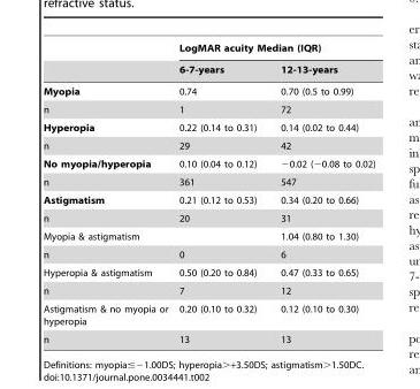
<table><thead><tr><td rowspan="2"></td><td colspan="2">LogMAR acuity Median (IQR)</td></tr><tr><td>6-7-years</td><td>12-13-years</td></tr></thead><tbody><tr><td>Myopia</td><td>0.74</td><td>0.70 (0.5 to 0.99)</td></tr><tr><td>n</td><td>1</td><td>72</td></tr><tr><td>Hyperopia</td><td>0.22 (0.14 to 0.31)</td><td>0.14 (0.02 to 0.44)</td></tr><tr><td>n</td><td>29</td><td>42</td></tr><tr><td>No myopia/hyperopia</td><td>0.10 (0.04 to 0.12)</td><td>−0.02 (−0.08 to 0.02)</td></tr><tr><td>n</td><td>361</td><td>547</td></tr><tr><td>Astigmatism</td><td>0.21 (0.12 to 0.53)</td><td>0.34 (0.20 to 0.66)</td></tr><tr><td>n</td><td>20</td><td>31</td></tr><tr><td>Myopia &amp; astigmatism</td><td></td><td>1.04 (0.80 to 1.30)</td></tr><tr><td>n</td><td>0</td><td>6</td></tr><tr><td>Hyperopia &amp; astigmatism</td><td>0.50 (0.20 to 0.84)</td><td>0.47 (0.33 to 0.65)</td></tr><tr><td>n</td><td>7</td><td>12</td></tr><tr><td>Astigmatism &amp; no myopia or hyperopia</td><td>0.20 (0.10 to 0.32)</td><td>0.12 (0.10 to 0.30)</td></tr><tr><td>n</td><td>13</td><td>13</td></tr></tbody></table>